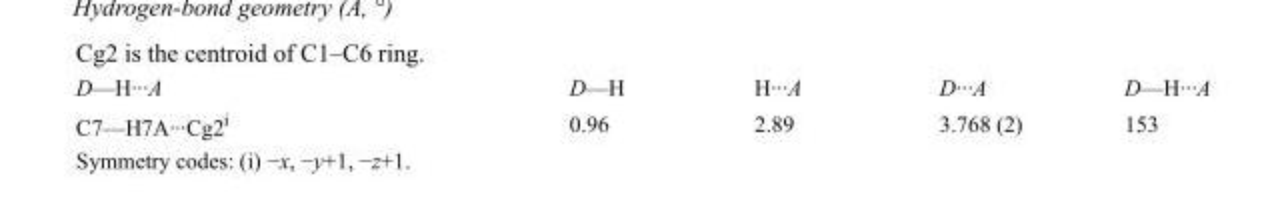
<table><tbody><tr><td>D—H···A</td><td>D—H</td><td>H···A</td><td>D···A</td><td>D—H···A</td></tr><tr><td>C7—H7A···Cg2<sup>i</sup></td><td>0.96</td><td>2.89</td><td>3.768 (2)</td><td>153</td></tr></tbody></table>